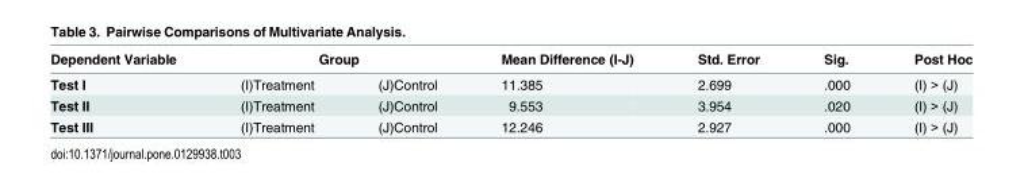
<table><thead><tr><td rowspan="2">Dependent Variable Test I</td><td colspan="2">Group</td><td rowspan="2">Mean Difference (I-J) 11.385</td><td rowspan="2">Std. Error 2.699</td><td rowspan="2">Sig. .000</td><td rowspan="2">Post Hoc (I) &gt; (J)</td></tr><tr><td>(I)Treatment</td><td>(J)Control</td></tr></thead><tbody><tr><td>Test II</td><td>(I)Treatment</td><td>(J)Control</td><td>9.553</td><td>3.954</td><td>.020</td><td>(I) &gt; (J)</td></tr><tr><td>Test III</td><td>(I)Treatment</td><td>(J)Control</td><td>12.246</td><td>2.927</td><td>.000</td><td>(I) &gt; (J)</td></tr></tbody></table>